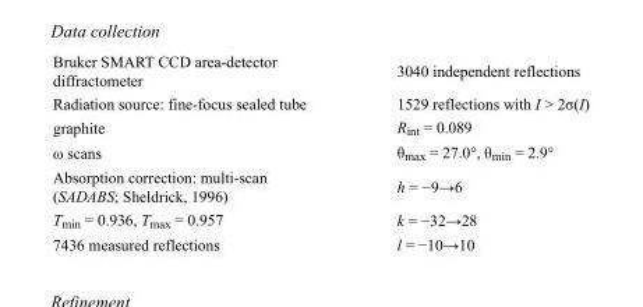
<table><tbody><tr><td>Bruker SMART CCD area-detector diffractometer</td><td>3040 independent reflections</td></tr><tr><td>Radiation source: fine-focus sealed tube</td><td>1529 reflections with I &gt; 2σ(I)</td></tr><tr><td>graphite</td><td>R<sub>int</sub> = 0.089</td></tr><tr><td>ω scans</td><td>θ<sub>max</sub> = 27.0°, θ<sub>min</sub> = 2.9°</td></tr><tr><td>Absorption correction: multi-scan (SADABS; Sheldrick, 1996)</td><td>h = −9→6</td></tr><tr><td>T<sub>min</sub> = 0.936, T<sub>max</sub> = 0.957</td><td>k = −32→28</td></tr><tr><td>7436 measured reflections</td><td>l = −10→10</td></tr></tbody></table>